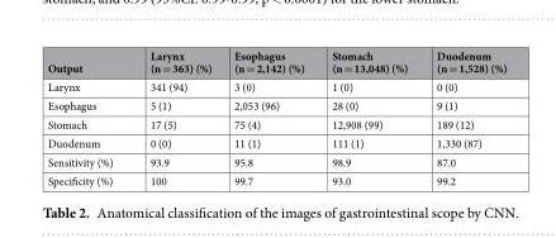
<table><thead><tr><td>Output</td><td>Larynx (n = 363) (%)</td><td>Esophagus (n = 2,142) (%)</td><td>Stomach (n = 13,048) (%)</td><td>Duodenum (n = 1,528) (%)</td></tr></thead><tbody><tr><td>Larynx</td><td>341 (94)</td><td>3 (0)</td><td>1 (0)</td><td>0 (0)</td></tr><tr><td>Esophagus</td><td>5 (1)</td><td>2,053 (96)</td><td>28 (0)</td><td>9 (1)</td></tr><tr><td>Stomach</td><td>17 (5)</td><td>75 (4)</td><td>12,908 (99)</td><td>189 (12)</td></tr><tr><td>Duodenum</td><td>0 (0)</td><td>11 (1)</td><td>111 (1)</td><td>1,330 (87)</td></tr><tr><td>Sensitivity (%)</td><td>93.9</td><td>95.8</td><td>98.9</td><td>87.0</td></tr><tr><td>Specificity (%)</td><td>100</td><td>99.7</td><td>93.0</td><td>99.2</td></tr></tbody></table>